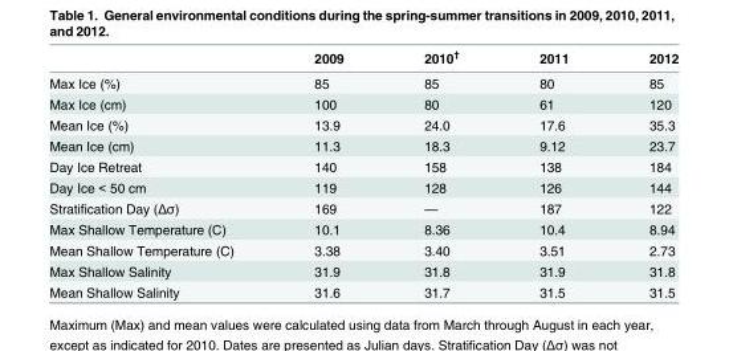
<table><thead><tr><td></td><td>2009</td><td>2010<sup>†</sup></td><td>2011</td><td>2012</td></tr></thead><tbody><tr><td>Max Ice (%)</td><td>85</td><td>85</td><td>80</td><td>85</td></tr><tr><td>Max Ice (cm)</td><td>100</td><td>80</td><td>61</td><td>120</td></tr><tr><td>Mean Ice (%)</td><td>13.9</td><td>24.0</td><td>17.6</td><td>35.3</td></tr><tr><td>Mean Ice (cm)</td><td>11.3</td><td>18.3</td><td>9.12</td><td>23.7</td></tr><tr><td>Day Ice Retreat</td><td>140</td><td>158</td><td>138</td><td>184</td></tr><tr><td>Day Ice &lt; 50 cm</td><td>119</td><td>128</td><td>126</td><td>144</td></tr><tr><td>Stratification Day (Δσ)</td><td>169</td><td>—</td><td>187</td><td>122</td></tr><tr><td>Max Shallow Temperature (C)</td><td>10.1</td><td>8.36</td><td>10.4</td><td>8.94</td></tr><tr><td>Mean Shallow Temperature (C)</td><td>3.38</td><td>3.40</td><td>3.51</td><td>2.73</td></tr><tr><td>Max Shallow Salinity</td><td>31.9</td><td>31.8</td><td>31.9</td><td>31.8</td></tr><tr><td>Mean Shallow Salinity</td><td>31.6</td><td>31.7</td><td>31.5</td><td>31.5</td></tr></tbody></table>